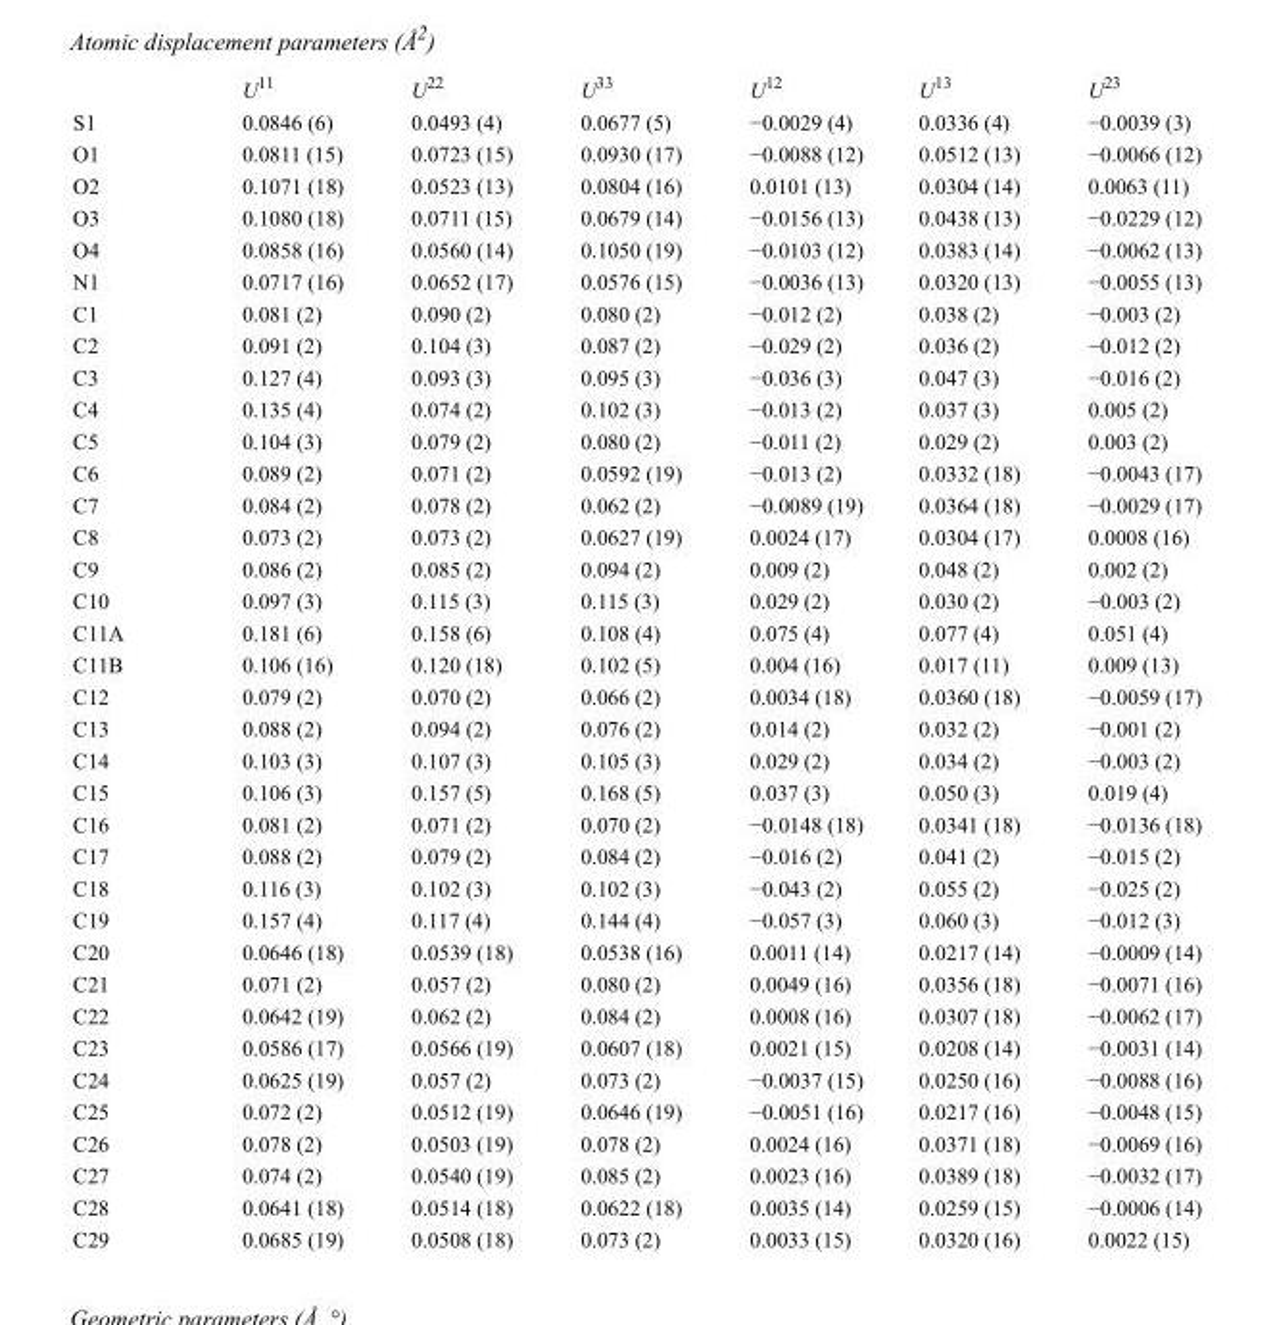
<table><thead><tr><td></td><td>U<sup>11</sup></td><td>U<sup>22</sup></td><td>U<sup>33</sup></td><td>U<sup>12</sup></td><td>U<sup>13</sup></td><td>U<sup>23</sup></td></tr></thead><tbody><tr><td>S1</td><td>0.0846 (6)</td><td>0.0493 (4)</td><td>0.0677 (5)</td><td>−0.0029 (4)</td><td>0.0336 (4)</td><td>−0.0039 (3)</td></tr><tr><td>O1</td><td>0.0811 (15)</td><td>0.0723 (15)</td><td>0.0930 (17)</td><td>−0.0088 (12)</td><td>0.0512 (13)</td><td>−0.0066 (12)</td></tr><tr><td>O2</td><td>0.1071 (18)</td><td>0.0523 (13)</td><td>0.0804 (16)</td><td>0.0101 (13)</td><td>0.0304 (14)</td><td>0.0063 (11)</td></tr><tr><td>O3</td><td>0.1080 (18)</td><td>0.0711 (15)</td><td>0.0679 (14)</td><td>−0.0156 (13)</td><td>0.0438 (13)</td><td>−0.0229 (12)</td></tr><tr><td>O4</td><td>0.0858 (16)</td><td>0.0560 (14)</td><td>0.1050 (19)</td><td>−0.0103 (12)</td><td>0.0383 (14)</td><td>−0.0062 (13)</td></tr><tr><td>N1</td><td>0.0717 (16)</td><td>0.0652 (17)</td><td>0.0576 (15)</td><td>−0.0036 (13)</td><td>0.0320 (13)</td><td>−0.0055 (13)</td></tr><tr><td>C1</td><td>0.081 (2)</td><td>0.090 (2)</td><td>0.080 (2)</td><td>−0.012 (2)</td><td>0.038 (2)</td><td>−0.003 (2)</td></tr><tr><td>C2</td><td>0.091 (2)</td><td>0.104 (3)</td><td>0.087 (2)</td><td>−0.029 (2)</td><td>0.036 (2)</td><td>−0.012 (2)</td></tr><tr><td>C3</td><td>0.127 (4)</td><td>0.093 (3)</td><td>0.095 (3)</td><td>−0.036 (3)</td><td>0.047 (3)</td><td>−0.016 (2)</td></tr><tr><td>C4</td><td>0.135 (4)</td><td>0.074 (2)</td><td>0.102 (3)</td><td>−0.013 (2)</td><td>0.037 (3)</td><td>0.005 (2)</td></tr><tr><td>C5</td><td>0.104 (3)</td><td>0.079 (2)</td><td>0.080 (2)</td><td>−0.011 (2)</td><td>0.029 (2)</td><td>0.003 (2)</td></tr><tr><td>C6</td><td>0.089 (2)</td><td>0.071 (2)</td><td>0.0592 (19)</td><td>−0.013 (2)</td><td>0.0332 (18)</td><td>−0.0043 (17)</td></tr><tr><td>C7</td><td>0.084 (2)</td><td>0.078 (2)</td><td>0.062 (2)</td><td>−0.0089 (19)</td><td>0.0364 (18)</td><td>−0.0029 (17)</td></tr><tr><td>C8</td><td>0.073 (2)</td><td>0.073 (2)</td><td>0.0627 (19)</td><td>0.0024 (17)</td><td>0.0304 (17)</td><td>0.0008 (16)</td></tr><tr><td>C9</td><td>0.086 (2)</td><td>0.085 (2)</td><td>0.094 (2)</td><td>0.009 (2)</td><td>0.048 (2)</td><td>0.002 (2)</td></tr><tr><td>C10</td><td>0.097 (3)</td><td>0.115 (3)</td><td>0.115 (3)</td><td>0.029 (2)</td><td>0.030 (2)</td><td>−0.003 (2)</td></tr><tr><td>C11A</td><td>0.181 (6)</td><td>0.158 (6)</td><td>0.108 (4)</td><td>0.075 (4)</td><td>0.077 (4)</td><td>0.051 (4)</td></tr><tr><td>C11B</td><td>0.106 (16)</td><td>0.120 (18)</td><td>0.102 (5)</td><td>0.004 (16)</td><td>0.017 (11)</td><td>0.009 (13)</td></tr><tr><td>C12</td><td>0.079 (2)</td><td>0.070 (2)</td><td>0.066 (2)</td><td>0.0034 (18)</td><td>0.0360 (18)</td><td>−0.0059 (17)</td></tr><tr><td>C13</td><td>0.088 (2)</td><td>0.094 (2)</td><td>0.076 (2)</td><td>0.014 (2)</td><td>0.032 (2)</td><td>−0.001 (2)</td></tr><tr><td>C14</td><td>0.103 (3)</td><td>0.107 (3)</td><td>0.105 (3)</td><td>0.029 (2)</td><td>0.034 (2)</td><td>−0.003 (2)</td></tr><tr><td>C15</td><td>0.106 (3)</td><td>0.157 (5)</td><td>0.168 (5)</td><td>0.037 (3)</td><td>0.050 (3)</td><td>0.019 (4)</td></tr><tr><td>C16</td><td>0.081 (2)</td><td>0.071 (2)</td><td>0.070 (2)</td><td>−0.0148 (18)</td><td>0.0341 (18)</td><td>−0.0136 (18)</td></tr><tr><td>C17</td><td>0.088 (2)</td><td>0.079 (2)</td><td>0.084 (2)</td><td>−0.016 (2)</td><td>0.041 (2)</td><td>−0.015 (2)</td></tr><tr><td>C18</td><td>0.116 (3)</td><td>0.102 (3)</td><td>0.102 (3)</td><td>−0.043 (2)</td><td>0.055 (2)</td><td>−0.025 (2)</td></tr><tr><td>C19</td><td>0.157 (4)</td><td>0.117 (4)</td><td>0.144 (4)</td><td>−0.057 (3)</td><td>0.060 (3)</td><td>−0.012 (3)</td></tr><tr><td>C20</td><td>0.0646 (18)</td><td>0.0539 (18)</td><td>0.0538 (16)</td><td>0.0011 (14)</td><td>0.0217 (14)</td><td>−0.0009 (14)</td></tr><tr><td>C21</td><td>0.071 (2)</td><td>0.057 (2)</td><td>0.080 (2)</td><td>0.0049 (16)</td><td>0.0356 (18)</td><td>−0.0071 (16)</td></tr><tr><td>C22</td><td>0.0642 (19)</td><td>0.062 (2)</td><td>0.084 (2)</td><td>0.0008 (16)</td><td>0.0307 (18)</td><td>−0.0062 (17)</td></tr><tr><td>C23</td><td>0.0586 (17)</td><td>0.0566 (19)</td><td>0.0607 (18)</td><td>0.0021 (15)</td><td>0.0208 (14)</td><td>−0.0031 (14)</td></tr><tr><td>C24</td><td>0.0625 (19)</td><td>0.057 (2)</td><td>0.073 (2)</td><td>−0.0037 (15)</td><td>0.0250 (16)</td><td>−0.0088 (16)</td></tr><tr><td>C25</td><td>0.072 (2)</td><td>0.0512 (19)</td><td>0.0646 (19)</td><td>−0.0051 (16)</td><td>0.0217 (16)</td><td>−0.0048 (15)</td></tr><tr><td>C26</td><td>0.078 (2)</td><td>0.0503 (19)</td><td>0.078 (2)</td><td>0.0024 (16)</td><td>0.0371 (18)</td><td>−0.0069 (16)</td></tr><tr><td>C27</td><td>0.074 (2)</td><td>0.0540 (19)</td><td>0.085 (2)</td><td>0.0023 (16)</td><td>0.0389 (18)</td><td>−0.0032 (17)</td></tr><tr><td>C28</td><td>0.0641 (18)</td><td>0.0514 (18)</td><td>0.0622 (18)</td><td>0.0035 (14)</td><td>0.0259 (15)</td><td>−0.0006 (14)</td></tr><tr><td>C29</td><td>0.0685 (19)</td><td>0.0508 (18)</td><td>0.073 (2)</td><td>0.0033 (15)</td><td>0.0320 (16)</td><td>0.0022 (15)</td></tr></tbody></table>